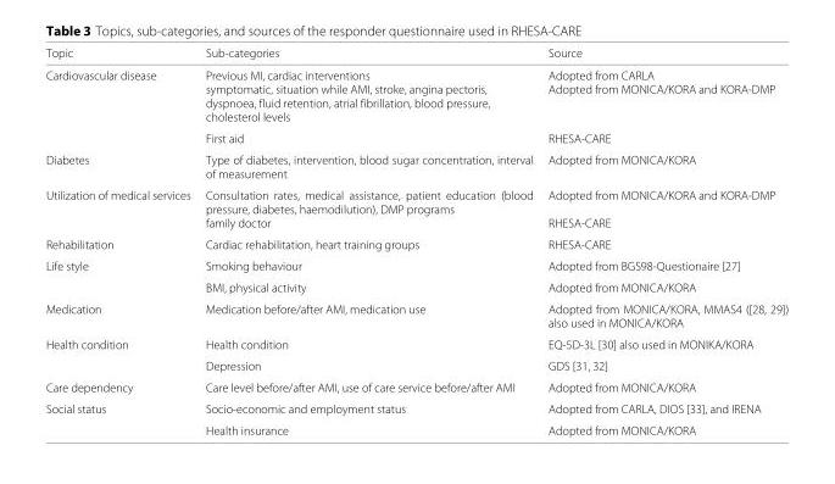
<table><thead><tr><td>Topic</td><td>Sub-categories</td><td>Source</td></tr></thead><tbody><tr><td rowspan="3">Cardiovascular disease</td><td>Previous MI, cardiac interventions</td><td>Adopted from CARLA</td></tr><tr><td>symptomatic, situation while AMI, stroke, angina pectoris, dyspnoea, fluid retention, atrial fibrillation, blood pressure, cholesterol levels</td><td>Adopted from MONICA/KORA and KORA-DMP</td></tr><tr><td>First aid</td><td>RHESA-CARE</td></tr><tr><td>Diabetes</td><td>Type of diabetes, intervention, blood sugar concentration, interval of measurement</td><td>Adopted from MONICA/KORA</td></tr><tr><td rowspan="2">Utilization of medical services</td><td>Consultation rates, medical assistance, patient education (blood pressure, diabetes, haemodilution), DMP programs</td><td>Adopted from MONICA/KORA and KORA-DMP</td></tr><tr><td>family doctor</td><td>RHESA-CARE</td></tr><tr><td>Rehabilitation</td><td>Cardiac rehabilitation, heart training groups</td><td>RHESA-CARE</td></tr><tr><td rowspan="2">Life style</td><td>Smoking behaviour</td><td>Adopted from BGS98-Questionaire [27]</td></tr><tr><td>BMI, physical activity</td><td>Adopted from MONICA/KORA</td></tr><tr><td>Medication</td><td>Medication before/after AMI, medication use</td><td>Adopted from MONICA/KORA, MMAS4 ([28, 29]) also used in MONICA/KORA</td></tr><tr><td rowspan="2">Health condition</td><td>Health condition</td><td>EQ-5D-3L [30] also used in MONIKA/KORA</td></tr><tr><td>Depression</td><td>GDS [31, 32]</td></tr><tr><td>Care dependency</td><td>Care level before/after AMI, use of care service before/after AMI</td><td>Adopted from MONICA/KORA</td></tr><tr><td rowspan="2">Social status</td><td>Socio-economic and employment status</td><td>Adopted from CARLA, DIOS [33], and IRENA</td></tr><tr><td>Health insurance</td><td>Adopted from MONICA/KORA</td></tr></tbody></table>